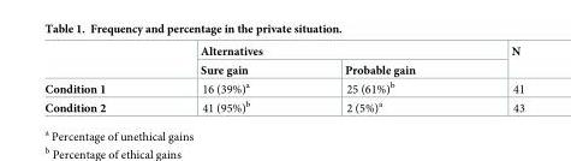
<table><thead><tr><td rowspan="2"></td><td colspan="2">Alternatives</td><td rowspan="2">N</td></tr><tr><td>Sure gain</td><td>Probable gain</td></tr></thead><tbody><tr><td>Condition 1</td><td>16 (39%)<sup>a</sup></td><td>25 (61%)<sup>b</sup></td><td>41</td></tr><tr><td>Condition 2</td><td>41 (95%)<sup>b</sup></td><td>2 (5%)<sup>a</sup></td><td>43</td></tr></tbody></table>